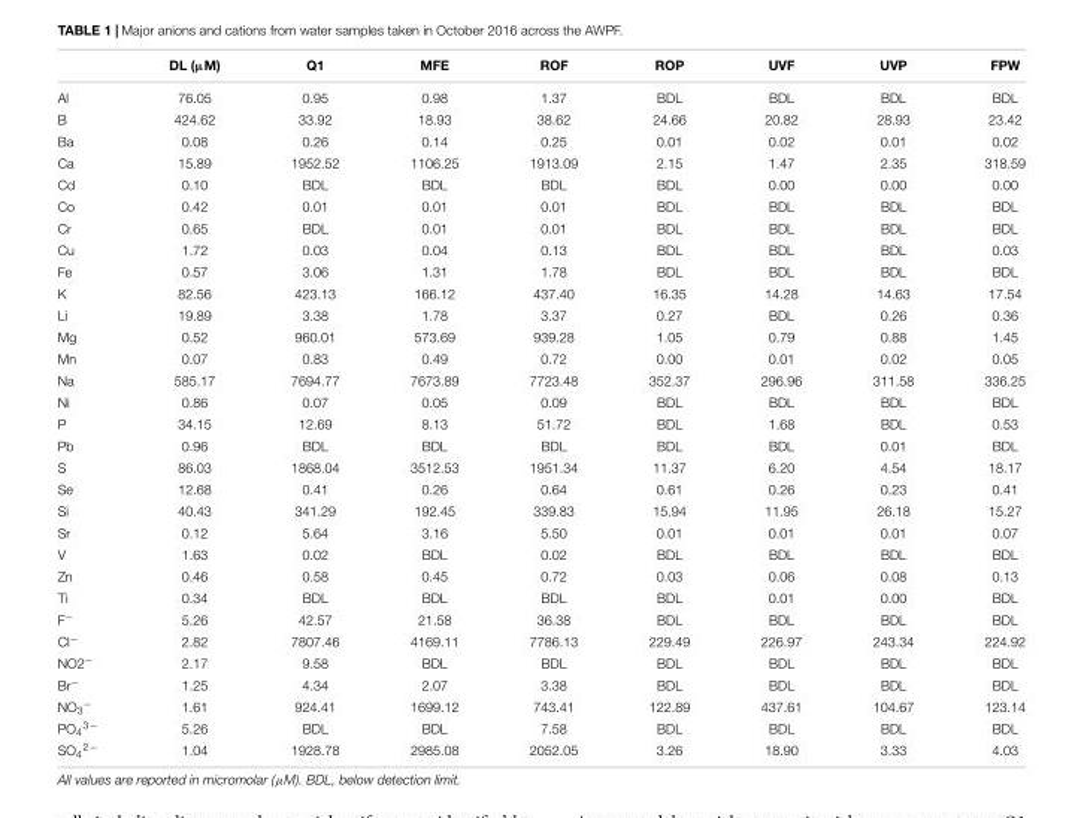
<table><thead><tr><td></td><td>DL (µM)</td><td>Q1</td><td>MFE</td><td>ROF</td><td>ROP</td><td>UVF</td><td>UVP</td><td>FPW</td></tr></thead><tbody><tr><td>Al</td><td>76.05</td><td>0.95</td><td>0.98</td><td>1.37</td><td>BDL</td><td>BDL</td><td>BDL</td><td>BDL</td></tr><tr><td>B</td><td>424.62</td><td>33.92</td><td>18.93</td><td>38.62</td><td>24.66</td><td>20.82</td><td>28.93</td><td>23.42</td></tr><tr><td>Ba</td><td>0.08</td><td>0.26</td><td>0.14</td><td>0.25</td><td>0.01</td><td>0.02</td><td>0.01</td><td>0.02</td></tr><tr><td>Ca</td><td>15.89</td><td>1952.52</td><td>1106.25</td><td>1913.09</td><td>2.15</td><td>1.47</td><td>2.35</td><td>318.59</td></tr><tr><td>Cd</td><td>0.10</td><td>BDL</td><td>BDL</td><td>BDL</td><td>BDL</td><td>0.00</td><td>0.00</td><td>0.00</td></tr><tr><td>Co</td><td>0.42</td><td>0.01</td><td>0.01</td><td>0.01</td><td>BDL</td><td>BDL</td><td>BDL</td><td>BDL</td></tr><tr><td>Cr</td><td>0.65</td><td>BDL</td><td>0.01</td><td>0.01</td><td>BDL</td><td>BDL</td><td>BDL</td><td>BDL</td></tr><tr><td>Cu</td><td>1.72</td><td>0.03</td><td>0.04</td><td>0.13</td><td>BDL</td><td>BDL</td><td>BDL</td><td>0.03</td></tr><tr><td>Fe</td><td>0.57</td><td>3.06</td><td>1.31</td><td>1.78</td><td>BDL</td><td>BDL</td><td>BDL</td><td>BDL</td></tr><tr><td>K</td><td>82.56</td><td>423.13</td><td>166.12</td><td>437.40</td><td>16.35</td><td>14.28</td><td>14.63</td><td>17.54</td></tr><tr><td>Li</td><td>19.89</td><td>3.38</td><td>1.78</td><td>3.37</td><td>0.27</td><td>BDL</td><td>0.26</td><td>0.36</td></tr><tr><td>Mg</td><td>0.52</td><td>960.01</td><td>573.69</td><td>939.28</td><td>1.05</td><td>0.79</td><td>0.88</td><td>1.45</td></tr><tr><td>Mn</td><td>0.07</td><td>0.83</td><td>0.49</td><td>0.72</td><td>0.00</td><td>0.01</td><td>0.02</td><td>0.05</td></tr><tr><td>Na</td><td>585.17</td><td>7694.77</td><td>7673.89</td><td>7723.48</td><td>352.37</td><td>296.96</td><td>311.58</td><td>336.25</td></tr><tr><td>Ni</td><td>0.86</td><td>0.07</td><td>0.05</td><td>0.09</td><td>BDL</td><td>BDL</td><td>BDL</td><td>BDL</td></tr><tr><td>P</td><td>34.15</td><td>12.69</td><td>8.13</td><td>51.72</td><td>BDL</td><td>1.68</td><td>BDL</td><td>0.53</td></tr><tr><td>Pb</td><td>0.96</td><td>BDL</td><td>BDL</td><td>BDL</td><td>BDL</td><td>BDL</td><td>0.01</td><td>BDL</td></tr><tr><td>S</td><td>86.03</td><td>1868.04</td><td>3512.53</td><td>1951.34</td><td>11.37</td><td>6.20</td><td>4.54</td><td>18.17</td></tr><tr><td>Se</td><td>12.68</td><td>0.41</td><td>0.26</td><td>0.64</td><td>0.61</td><td>0.26</td><td>0.23</td><td>0.41</td></tr><tr><td>Si</td><td>40.43</td><td>341.29</td><td>192.45</td><td>339.83</td><td>15.94</td><td>11.95</td><td>26.18</td><td>15.27</td></tr><tr><td>Sr</td><td>0.12</td><td>5.64</td><td>3.16</td><td>5.50</td><td>0.01</td><td>0.01</td><td>0.01</td><td>0.07</td></tr><tr><td>V</td><td>1.63</td><td>0.02</td><td>BDL</td><td>0.02</td><td>BDL</td><td>BDL</td><td>BDL</td><td>BDL</td></tr><tr><td>Zn</td><td>0.46</td><td>0.58</td><td>0.45</td><td>0.72</td><td>0.03</td><td>0.06</td><td>0.08</td><td>0.13</td></tr><tr><td>Ti</td><td>0.34</td><td>BDL</td><td>BDL</td><td>BDL</td><td>BDL</td><td>0.01</td><td>0.00</td><td>BDL</td></tr><tr><td>F<sup>−</sup></td><td>5.26</td><td>42.57</td><td>21.58</td><td>36.38</td><td>BDL</td><td>BDL</td><td>BDL</td><td>BDL</td></tr><tr><td>Cl<sup>−</sup></td><td>2.82</td><td>7807.46</td><td>4169.11</td><td>7786.13</td><td>229.49</td><td>226.97</td><td>243.34</td><td>224.92</td></tr><tr><td>NO2<sup>−</sup></td><td>2.17</td><td>9.58</td><td>BDL</td><td>BDL</td><td>BDL</td><td>BDL</td><td>BDL</td><td>BDL</td></tr><tr><td>Br<sup>−</sup></td><td>1.25</td><td>4.34</td><td>2.07</td><td>3.38</td><td>BDL</td><td>BDL</td><td>BDL</td><td>BDL</td></tr><tr><td>NO<sub>3</sub><sup>−</sup></td><td>1.61</td><td>924.41</td><td>1699.12</td><td>743.41</td><td>122.89</td><td>437.61</td><td>104.67</td><td>123.14</td></tr><tr><td>PO<sub>4</sub><sup>3−</sup></td><td>5.26</td><td>BDL</td><td>BDL</td><td>7.58</td><td>BDL</td><td>BDL</td><td>BDL</td><td>BDL</td></tr><tr><td>SO<sub>4</sub><sup>2−</sup></td><td>1.04</td><td>1928.78</td><td>2985.08</td><td>2052.05</td><td>3.26</td><td>18.90</td><td>3.33</td><td>4.03</td></tr></tbody></table>